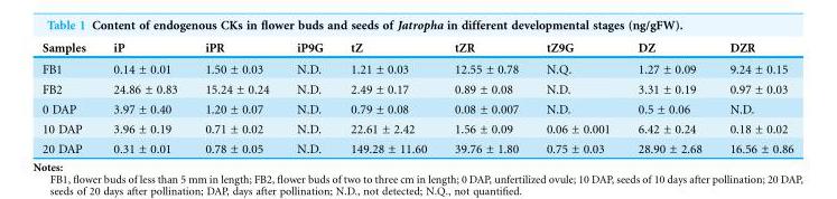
<table><thead><tr><td>Samples</td><td>iP</td><td>iPR</td><td>iP9G</td><td>tZ</td><td>tZR</td><td>tZ9G</td><td>DZ</td><td>DZR</td></tr></thead><tbody><tr><td>FB1</td><td>0.14 ± 0.01</td><td>1.50 ± 0.03</td><td>N.D.</td><td>1.21 ± 0.03</td><td>12.55 ± 0.78</td><td>N.Q.</td><td>1.27 ± 0.09</td><td>9.24 ± 0.15</td></tr><tr><td>FB2</td><td>24.86 ± 0.83</td><td>15.24 ± 0.24</td><td>N.D.</td><td>2.49 ± 0.17</td><td>0.89 ± 0.08</td><td>N.D.</td><td>3.31 ± 0.19</td><td>0.97 ± 0.03</td></tr><tr><td>0 DAP</td><td>3.97 ± 0.40</td><td>1.20 ± 0.07</td><td>N.D.</td><td>0.79 ± 0.08</td><td>0.08 ± 0.007</td><td>N.D.</td><td>0.5 ± 0.06</td><td>N.D.</td></tr><tr><td>10 DAP</td><td>3.96 ± 0.19</td><td>0.71 ± 0.02</td><td>N.D.</td><td>22.61 ± 2.42</td><td>1.56 ± 0.09</td><td>0.06 ± 0.001</td><td>6.42 ± 0.24</td><td>0.18 ± 0.02</td></tr><tr><td>20 DAP</td><td>0.31 ± 0.01</td><td>0.78 ± 0.05</td><td>N.D.</td><td>149.28 ± 11.60</td><td>39.76 ± 1.80</td><td>0.75 ± 0.03</td><td>28.90 ± 2.68</td><td>16.56 ± 0.86</td></tr></tbody></table>